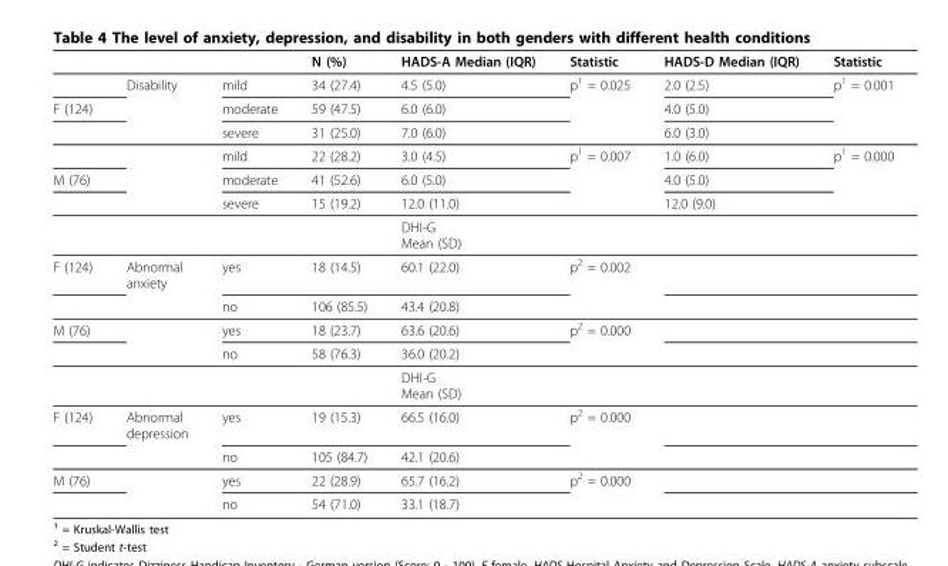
<table><thead><tr><td></td><td></td><td></td><td>N (%)</td><td>HADS-A Median (IQR)</td><td>Statistic</td><td>HADS-D Median (IQR)</td><td>Statistic</td></tr></thead><tbody><tr><td></td><td>Disability</td><td>mild</td><td>34 (27.4)</td><td>4.5 (5.0)</td><td>p<sup>1</sup> = 0.025</td><td>2.0 (2.5)</td><td>p<sup>1</sup> = 0.001</td></tr><tr><td rowspan="3">F (124)</td><td></td><td>moderate</td><td>59 (47.5)</td><td>6.0 (6.0)</td><td></td><td>4.0 (5.0)</td><td></td></tr><tr><td></td><td>severe</td><td>31 (25.0)</td><td>7.0 (6.0)</td><td></td><td>6.0 (3.0)</td><td></td></tr><tr><td></td><td>mild</td><td>22 (28.2)</td><td>3.0 (4.5)</td><td>p<sup>1</sup> = 0.007</td><td>1.0 (6.0)</td><td>p<sup>1</sup> = 0.000</td></tr><tr><td rowspan="3">M (76)</td><td></td><td>moderate</td><td>41 (52.6)</td><td>6.0 (5.0)</td><td></td><td>4.0 (5.0)</td><td></td></tr><tr><td></td><td>severe</td><td>15 (19.2)</td><td>12.0 (11.0)</td><td></td><td>12.0 (9.0)</td><td></td></tr><tr><td></td><td></td><td></td><td>DHI-G Mean (SD)</td><td></td><td></td><td></td></tr><tr><td rowspan="2">F (124)</td><td>Abnormal anxiety</td><td>yes</td><td>18 (14.5)</td><td>60.1 (22.0)</td><td>p<sup>2</sup> = 0.002</td><td></td><td></td></tr><tr><td></td><td>no</td><td>106 (85.5)</td><td>43.4 (20.8)</td><td></td><td></td><td></td></tr><tr><td rowspan="3">M (76)</td><td></td><td>yes</td><td>18 (23.7)</td><td>63.6 (20.6)</td><td>p<sup>2</sup> = 0.000</td><td></td><td></td></tr><tr><td></td><td>no</td><td>58 (76.3)</td><td>36.0 (20.2)</td><td></td><td></td><td></td></tr><tr><td></td><td></td><td></td><td>DHI-G Mean (SD)</td><td></td><td></td><td></td></tr><tr><td rowspan="2">F (124)</td><td>Abnormal depression</td><td>yes</td><td>19 (15.3)</td><td>66.5 (16.0)</td><td>p<sup>2</sup> = 0.000</td><td></td><td></td></tr><tr><td></td><td>no</td><td>105 (84.7)</td><td>42.1 (20.6)</td><td></td><td></td><td></td></tr><tr><td rowspan="2">M (76)</td><td></td><td>yes</td><td>22 (28.9)</td><td>65.7 (16.2)</td><td>p<sup>2</sup> = 0.000</td><td></td><td></td></tr><tr><td></td><td>no</td><td>54 (71.0)</td><td>33.1 (18.7)</td><td></td><td></td><td></td></tr></tbody></table>